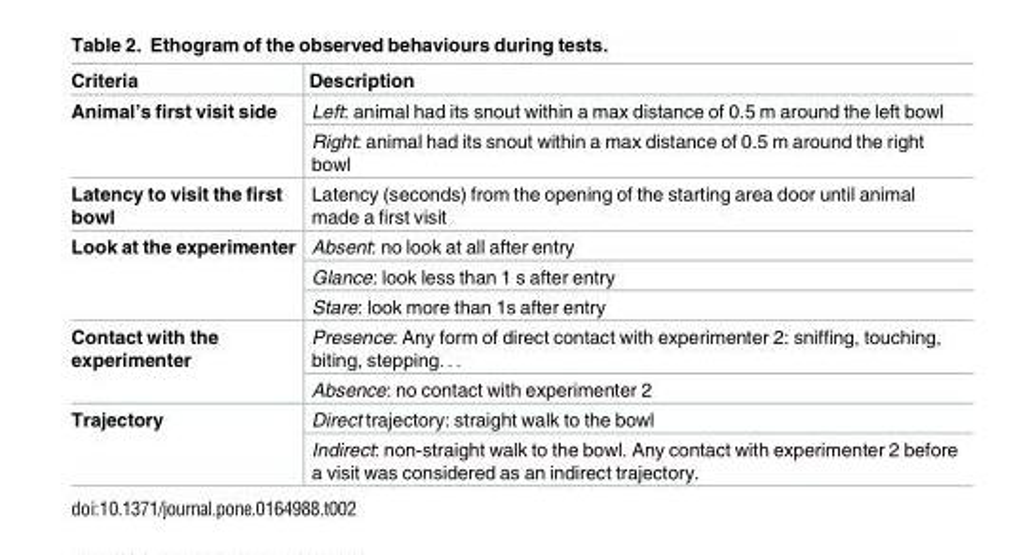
<table><thead><tr><td>Criteria</td><td>Description</td></tr></thead><tbody><tr><td rowspan="2">Animal’s first visit side</td><td>Left: animal had its snout within a max distance of 0.5 m around the left bowl</td></tr><tr><td>Right: animal had its snout within a max distance of 0.5 m around the right bowl</td></tr><tr><td>Latency to visit the first bowl</td><td>Latency (seconds) from the opening of the starting area door until animal made a first visit</td></tr><tr><td rowspan="3">Look at the experimenter</td><td>Absent: no look at all after entry</td></tr><tr><td>Glance: look less than 1 s after entry</td></tr><tr><td>Stare: look more than 1s after entry</td></tr><tr><td rowspan="2">Contact with the experimenter</td><td>Presence: Any form of direct contact with experimenter 2: sniffing, touching, biting, stepping. . .</td></tr><tr><td>Absence: no contact with experimenter 2</td></tr><tr><td rowspan="2">Trajectory</td><td>Direct trajectory: straight walk to the bowl</td></tr><tr><td>Indirect: non-straight walk to the bowl. Any contact with experimenter 2 before a visit was considered as an indirect trajectory.</td></tr></tbody></table>